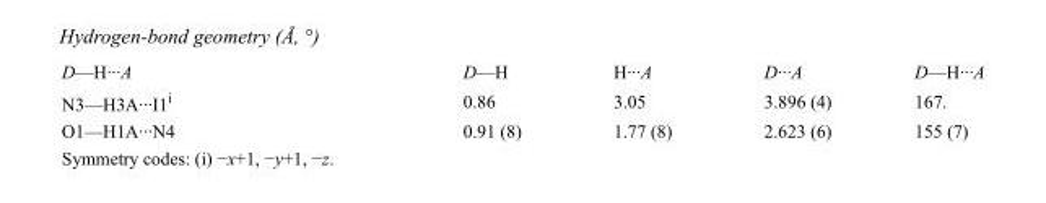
<table><tbody><tr><td>D—H···A</td><td>D—H</td><td>H···A</td><td>D···A</td><td>D—H···A</td></tr><tr><td>N3—H3A···I1<sup>i</sup></td><td>0.86</td><td>3.05</td><td>3.896 (4)</td><td>167.</td></tr><tr><td>O1—H1A···N4</td><td>0.91 (8)</td><td>1.77 (8)</td><td>2.623 (6)</td><td>155 (7)</td></tr></tbody></table>